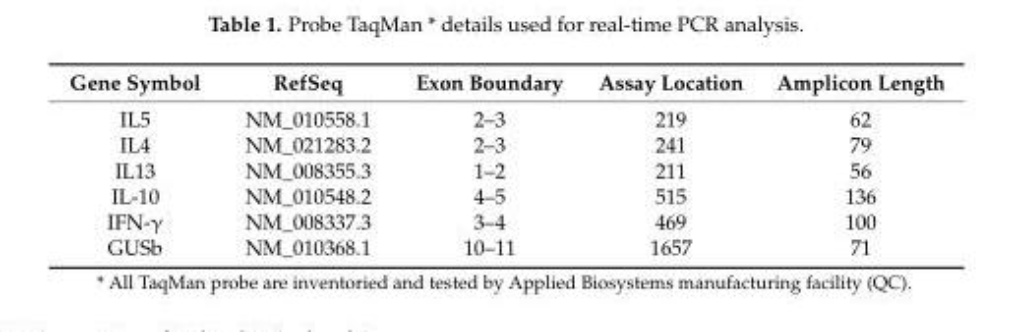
<table><thead><tr><td>Gene Symbol</td><td>RefSeq</td><td>Exon Boundary</td><td>Assay Location</td><td>Amplicon Length</td></tr></thead><tbody><tr><td>IL5</td><td>NM_010558.1</td><td>2–3</td><td>219</td><td>62</td></tr><tr><td>IL4</td><td>NM_021283.2</td><td>2–3</td><td>241</td><td>79</td></tr><tr><td>IL13</td><td>NM_008355.3</td><td>1–2</td><td>211</td><td>56</td></tr><tr><td>IL-10</td><td>NM_010548.2</td><td>4–5</td><td>515</td><td>136</td></tr><tr><td>IFN-γ</td><td>NM_008337.3</td><td>3–4</td><td>469</td><td>100</td></tr><tr><td>GUSb</td><td>NM_010368.1</td><td>10–11</td><td>1657</td><td>71</td></tr></tbody></table>